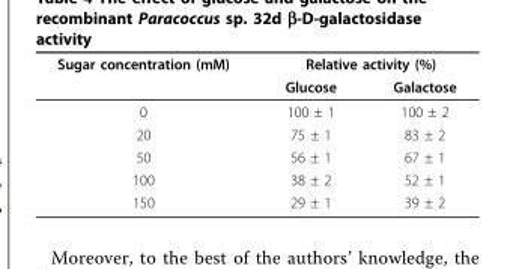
<table><thead><tr><td rowspan="2">Sugar concentration (mM)</td><td colspan="2">Relative activity (%)</td></tr><tr><td>Glucose</td><td>Galactose</td></tr></thead><tbody><tr><td>0</td><td>100 ± 1</td><td>100 ± 2</td></tr><tr><td>20</td><td>75 ± 1</td><td>83 ± 2</td></tr><tr><td>50</td><td>56 ± 1</td><td>67 ± 1</td></tr><tr><td>100</td><td>38 ± 2</td><td>52 ± 1</td></tr><tr><td>150</td><td>29 ± 1</td><td>39 ± 2</td></tr></tbody></table>